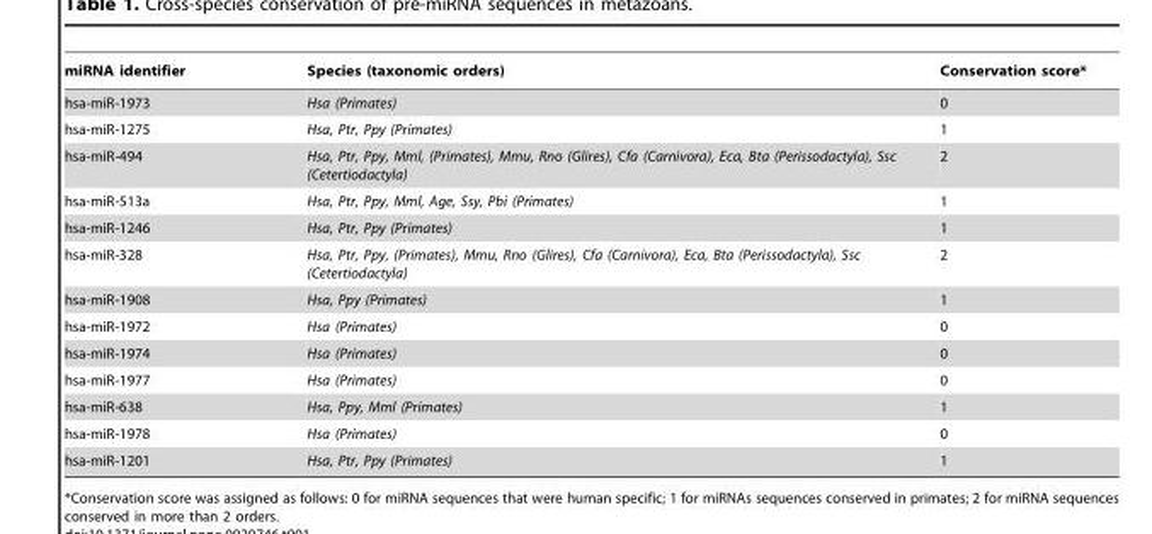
<table><thead><tr><td>miRNA identifier</td><td>Species (taxonomic orders)</td><td>Conservation score*</td></tr></thead><tbody><tr><td>hsa-miR-1973</td><td>Hsa (Primates)</td><td>0</td></tr><tr><td>hsa-miR-1275</td><td>Hsa, Ptr, Ppy (Primates)</td><td>1</td></tr><tr><td>hsa-miR-494</td><td>Hsa, Ptr, Ppy, Mml, (Primates), Mmu, Rno (Glires), Cfa (Carnivora), Eca, Bta (Perissodactyla), Ssc (Cetertiodactyla)</td><td>2</td></tr><tr><td>hsa-miR-513a</td><td>Hsa, Ptr, Ppy, Mml, Age, Ssy, Pbi (Primates)</td><td>1</td></tr><tr><td>hsa-miR-1246</td><td>Hsa, Ptr, Ppy (Primates)</td><td>1</td></tr><tr><td>hsa-miR-328</td><td>Hsa, Ptr, Ppy, (Primates), Mmu, Rno (Glires), Cfa (Carnivora), Eca, Bta (Perissodactyla), Ssc (Cetertiodactyla)</td><td>2</td></tr><tr><td>hsa-miR-1908</td><td>Hsa, Ppy (Primates)</td><td>1</td></tr><tr><td>hsa-miR-1972</td><td>Hsa (Primates)</td><td>0</td></tr><tr><td>hsa-miR-1974</td><td>Hsa (Primates)</td><td>0</td></tr><tr><td>hsa-miR-1977</td><td>Hsa (Primates)</td><td>0</td></tr><tr><td>hsa-miR-638</td><td>Hsa, Ppy, Mml (Primates)</td><td>1</td></tr><tr><td>hsa-miR-1978</td><td>Hsa (Primates)</td><td>0</td></tr><tr><td>hsa-miR-1201</td><td>Hsa, Ptr, Ppy (Primates)</td><td>1</td></tr></tbody></table>